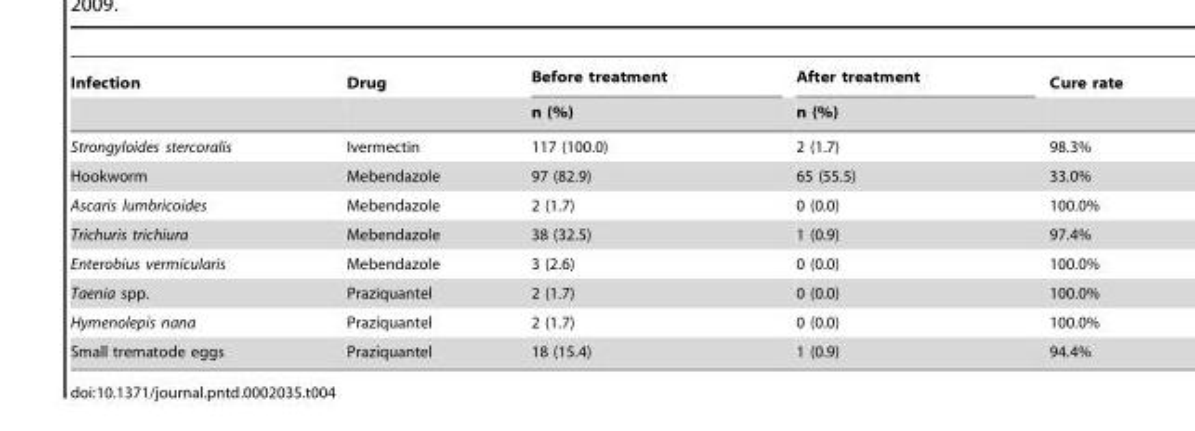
<table><thead><tr><td rowspan="2">Infection</td><td rowspan="2">Drug</td><td rowspan="2">Before treatment n (%)</td><td rowspan="2">After treatment n (%)</td><td rowspan="2">Cure rate</td></tr><tr></tr></thead><tbody><tr><td>Strongyloides stercoralis</td><td>Ivermectin</td><td>117 (100.0)</td><td>2 (1.7)</td><td>98.3%</td></tr><tr><td>Hookworm</td><td>Mebendazole</td><td>97 (82.9)</td><td>65 (55.5)</td><td>33.0%</td></tr><tr><td>Ascaris lumbricoides</td><td>Mebendazole</td><td>2 (1.7)</td><td>0 (0.0)</td><td>100.0%</td></tr><tr><td>Trichuris trichiura</td><td>Mebendazole</td><td>38 (32.5)</td><td>1 (0.9)</td><td>97.4%</td></tr><tr><td>Enterobius vermicularis</td><td>Mebendazole</td><td>3 (2.6)</td><td>0 (0.0)</td><td>100.0%</td></tr><tr><td>Taenia spp.</td><td>Praziquantel</td><td>2 (1.7)</td><td>0 (0.0)</td><td>100.0%</td></tr><tr><td>Hymenolepis nana</td><td>Praziquantel</td><td>2 (1.7)</td><td>0 (0.0)</td><td>100.0%</td></tr><tr><td>Small trematode eggs</td><td>Praziquantel</td><td>18 (15.4)</td><td>1 (0.9)</td><td>94.4%</td></tr></tbody></table>